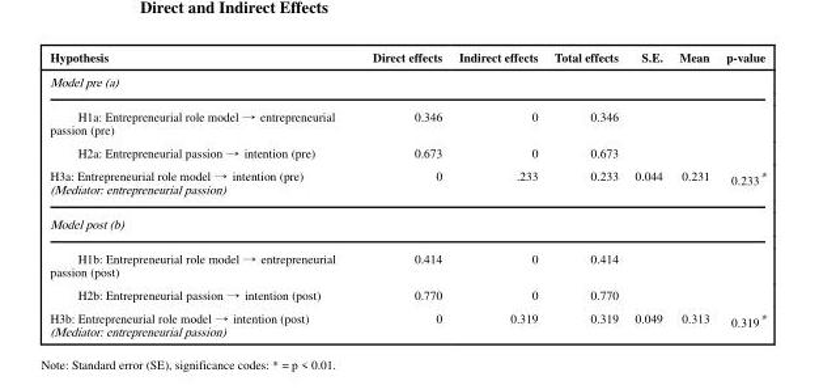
<table><thead><tr><td>Hypothesis</td><td>Direct effects</td><td>Indirect effects</td><td>Total effects</td><td>S.E.</td><td>Mean</td><td>p-value</td></tr></thead><tbody><tr><td colspan="7">Model pre (a)</td></tr><tr><td>H1a: Entrepreneurial role model → entrepreneurial passion (pre)</td><td>0.346</td><td>0</td><td>0.346</td><td></td><td></td><td></td></tr><tr><td>H2a: Entrepreneurial passion → intention (pre)</td><td>0.673</td><td>0</td><td>0.673</td><td></td><td></td><td></td></tr><tr><td>H3a: Entrepreneurial role model → intention (pre) (Mediator: entrepreneurial passion)</td><td>0</td><td>.233</td><td>0.233</td><td>0.044</td><td>0.231</td><td>0.233*</td></tr><tr><td colspan="7">Model post (b)</td></tr><tr><td>H1b: Entrepreneurial role model → entrepreneurial passion (post)</td><td>0.414</td><td>0</td><td>0.414</td><td></td><td></td><td></td></tr><tr><td>H2b: Entrepreneurial passion → intention (post)</td><td>0.770</td><td>0</td><td>0.770</td><td></td><td></td><td></td></tr><tr><td>H3b: Entrepreneurial role model → intention (post) (Mediator: entrepreneurial passion)</td><td>0</td><td>0.319</td><td>0.319</td><td>0.049</td><td>0.313</td><td>0.319*</td></tr></tbody></table>